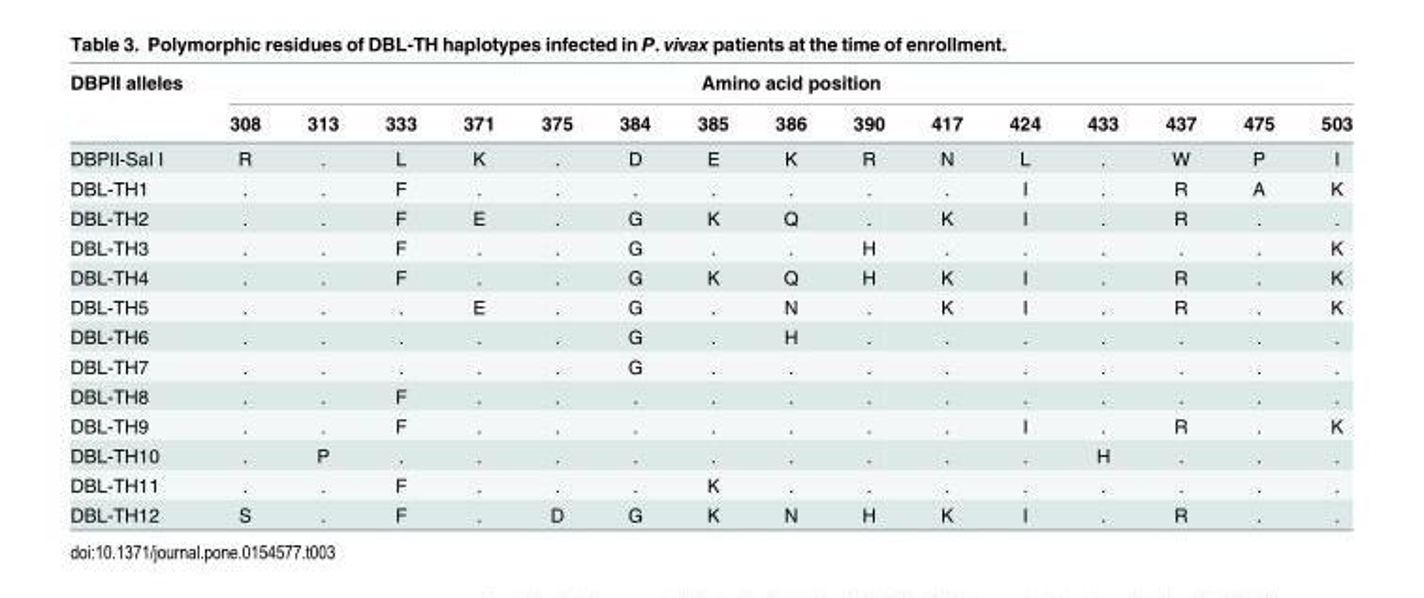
<table><thead><tr><td rowspan="2">DBPII alleles</td><td colspan="15">Amino acid position</td></tr><tr><td>308</td><td>313</td><td>333</td><td>371</td><td>375</td><td>384</td><td>385</td><td>386</td><td>390</td><td>417</td><td>424</td><td>433</td><td>437</td><td>475</td><td>503</td></tr></thead><tbody><tr><td>DBPII-Sal I</td><td>R</td><td>.</td><td>L</td><td>K</td><td>.</td><td>D</td><td>E</td><td>K</td><td>R</td><td>N</td><td>L</td><td>.</td><td>W</td><td>P</td><td>I</td></tr><tr><td>DBL-TH1</td><td>.</td><td>.</td><td>F</td><td>.</td><td>.</td><td>.</td><td>.</td><td>.</td><td>.</td><td>.</td><td>I</td><td>.</td><td>R</td><td>A</td><td>K</td></tr><tr><td>DBL-TH2</td><td>.</td><td>.</td><td>F</td><td>E</td><td>.</td><td>G</td><td>K</td><td>Q</td><td>.</td><td>K</td><td>I</td><td>.</td><td>R</td><td>.</td><td>.</td></tr><tr><td>DBL-TH3</td><td>.</td><td>.</td><td>F</td><td>.</td><td>.</td><td>G</td><td>.</td><td>.</td><td>H</td><td>.</td><td>.</td><td>.</td><td>.</td><td>.</td><td>K</td></tr><tr><td>DBL-TH4</td><td>.</td><td>.</td><td>F</td><td>.</td><td>.</td><td>G</td><td>K</td><td>Q</td><td>H</td><td>K</td><td>I</td><td>.</td><td>R</td><td>.</td><td>K</td></tr><tr><td>DBL-TH5</td><td>.</td><td>.</td><td>.</td><td>E</td><td>.</td><td>G</td><td>.</td><td>N</td><td>.</td><td>K</td><td>I</td><td>.</td><td>R</td><td>.</td><td>K</td></tr><tr><td>DBL-TH6</td><td>.</td><td>.</td><td>.</td><td>.</td><td>.</td><td>G</td><td>.</td><td>H</td><td>.</td><td>.</td><td>.</td><td>.</td><td>.</td><td>.</td><td>.</td></tr><tr><td>DBL-TH7</td><td>.</td><td>.</td><td>.</td><td>.</td><td>.</td><td>G</td><td>.</td><td>.</td><td>.</td><td>.</td><td>.</td><td>.</td><td>.</td><td>.</td><td>.</td></tr><tr><td>DBL-TH8</td><td>.</td><td>.</td><td>F</td><td>.</td><td>.</td><td>.</td><td>.</td><td>.</td><td>.</td><td>.</td><td>.</td><td>.</td><td>.</td><td>.</td><td>.</td></tr><tr><td>DBL-TH9</td><td>.</td><td>.</td><td>F</td><td>.</td><td>.</td><td>.</td><td>.</td><td>.</td><td>.</td><td>.</td><td>I</td><td>.</td><td>R</td><td>.</td><td>K</td></tr><tr><td>DBL-TH10</td><td>.</td><td>P</td><td>.</td><td>.</td><td>.</td><td>.</td><td>.</td><td>.</td><td>.</td><td>.</td><td>.</td><td>H</td><td>.</td><td>.</td><td>.</td></tr><tr><td>DBL-TH11</td><td>.</td><td>.</td><td>F</td><td>.</td><td>.</td><td>.</td><td>K</td><td>.</td><td>.</td><td>.</td><td>.</td><td>.</td><td>.</td><td>.</td><td>.</td></tr><tr><td>DBL-TH12</td><td>S</td><td>.</td><td>F</td><td>.</td><td>D</td><td>G</td><td>K</td><td>N</td><td>H</td><td>K</td><td>I</td><td>.</td><td>R</td><td>.</td><td>.</td></tr></tbody></table>